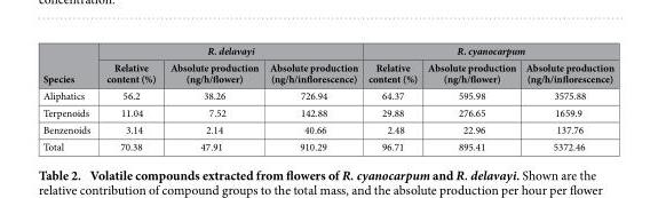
<table><thead><tr><td rowspan="2">Species</td><td colspan="3">R. delavayi</td><td colspan="3">R. cyanocarpum</td></tr><tr><td>Relative content (%)</td><td>Absolute production (ng/h/flower)</td><td>Absolute production (ng/h/inflorescence)</td><td>Relative content (%)</td><td>Absolute production (ng/h/flower)</td><td>Absolute production (ng/h/inflorescence)</td></tr></thead><tbody><tr><td>Aliphatics</td><td>56.2</td><td>38.26</td><td>726.94</td><td>64.37</td><td>595.98</td><td>3575.88</td></tr><tr><td>Terpenoids</td><td>11.04</td><td>7.52</td><td>142.88</td><td>29.88</td><td>276.65</td><td>1659.9</td></tr><tr><td>Benzenoids</td><td>3.14</td><td>2.14</td><td>40.66</td><td>2.48</td><td>22.96</td><td>137.76</td></tr><tr><td>Total</td><td>70.38</td><td>47.91</td><td>910.29</td><td>96.71</td><td>895.41</td><td>5372.46</td></tr></tbody></table>